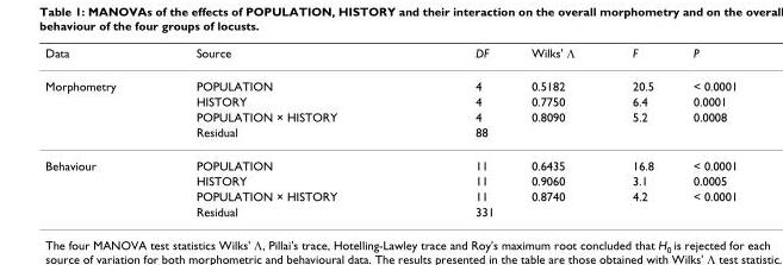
<table><thead><tr><td>Data</td><td>Source</td><td>DF</td><td>Wilks&#x27; Λ</td><td>F</td><td>P</td></tr></thead><tbody><tr><td rowspan="4">Morphometry</td><td>POPULATION</td><td>4</td><td>0.5182</td><td>20.5</td><td>&lt; 0.0001</td></tr><tr><td>HISTORY</td><td>4</td><td>0.7750</td><td>6.4</td><td>0.0001</td></tr><tr><td>POPULATION × HISTORY</td><td>4</td><td>0.8090</td><td>5.2</td><td>0.0008</td></tr><tr><td>Residual</td><td>88</td><td></td><td></td><td></td></tr><tr><td rowspan="4">Behaviour</td><td>POPULATION</td><td>11</td><td>0.6435</td><td>16.8</td><td>&lt; 0.0001</td></tr><tr><td>HISTORY</td><td>11</td><td>0.9060</td><td>3.1</td><td>0.0005</td></tr><tr><td>POPULATION × HISTORY</td><td>11</td><td>0.8740</td><td>4.2</td><td>&lt; 0.0001</td></tr><tr><td>Residual</td><td>331</td><td></td><td></td><td></td></tr></tbody></table>